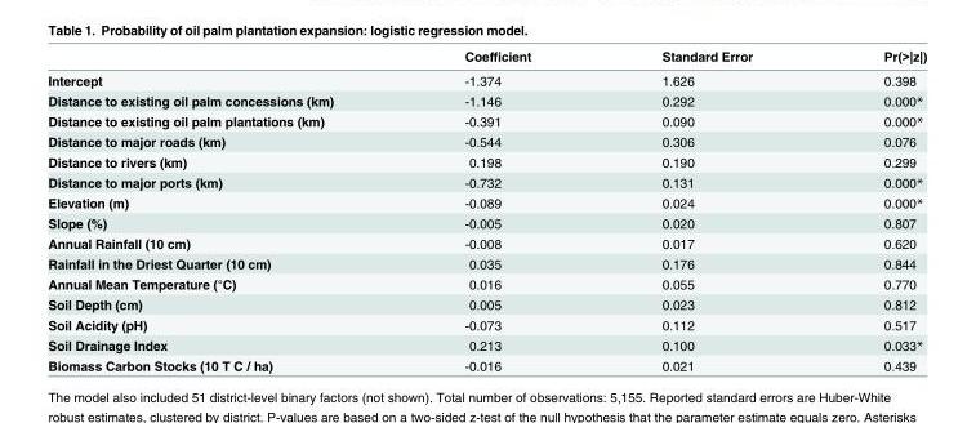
<table><thead><tr><td></td><td>Coefficient</td><td>Standard Error</td><td>Pr(&gt;|z|)</td></tr></thead><tbody><tr><td>Intercept</td><td>-1.374</td><td>1.626</td><td>0.398</td></tr><tr><td>Distance to existing oil palm concessions (km)</td><td>-1.146</td><td>0.292</td><td>0.000*</td></tr><tr><td>Distance to existing oil palm plantations (km)</td><td>-0.391</td><td>0.090</td><td>0.000*</td></tr><tr><td>Distance to major roads (km)</td><td>-0.544</td><td>0.306</td><td>0.076</td></tr><tr><td>Distance to rivers (km)</td><td>0.198</td><td>0.190</td><td>0.299</td></tr><tr><td>Distance to major ports (km)</td><td>-0.732</td><td>0.131</td><td>0.000*</td></tr><tr><td>Elevation (m)</td><td>-0.089</td><td>0.024</td><td>0.000*</td></tr><tr><td>Slope (%)</td><td>-0.005</td><td>0.020</td><td>0.807</td></tr><tr><td>Annual Rainfall (10 cm)</td><td>-0.008</td><td>0.017</td><td>0.620</td></tr><tr><td>Rainfall in the Driest Quarter (10 cm)</td><td>0.035</td><td>0.176</td><td>0.844</td></tr><tr><td>Annual Mean Temperature (°C)</td><td>0.016</td><td>0.055</td><td>0.770</td></tr><tr><td>Soil Depth (cm)</td><td>0.005</td><td>0.023</td><td>0.812</td></tr><tr><td>Soil Acidity (pH)</td><td>-0.073</td><td>0.112</td><td>0.517</td></tr><tr><td>Soil Drainage Index</td><td>0.213</td><td>0.100</td><td>0.033*</td></tr><tr><td>Biomass Carbon Stocks (10 T C / ha)</td><td>-0.016</td><td>0.021</td><td>0.439</td></tr></tbody></table>